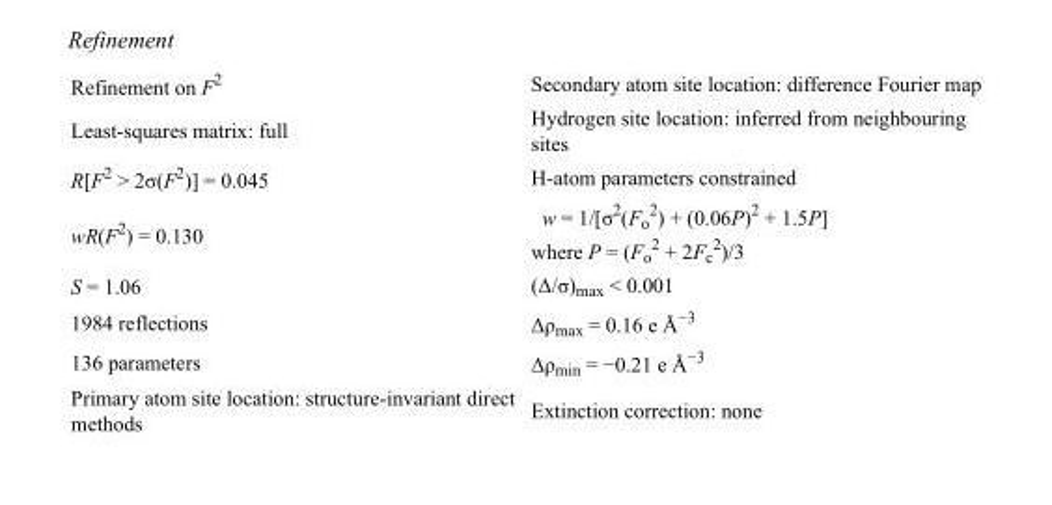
<table><tbody><tr><td>Refinement on F<sup>2</sup></td><td>Secondary atom site location: difference Fourier map</td></tr><tr><td>Least-squares matrix: full</td><td>Hydrogen site location: inferred from neighbouring sites</td></tr><tr><td>R[F<sup>2</sup> &gt; 2σ(F<sup>2</sup>)] = 0.045</td><td>H-atom parameters constrained</td></tr><tr><td>wR(F<sup>2</sup>) = 0.130</td><td>w = 1/[σ<sup>2</sup>(F<sub>o</sub> <sup>2</sup>) + (0.06P)<sup>2</sup> + 1.5P] where P = (F<sub>o</sub> <sup>2</sup> + 2F<sub>c</sub> <sup>2</sup>)/3</td></tr><tr><td>S = 1.06</td><td>(Δ/σ)<sub>max</sub> &lt; 0.001</td></tr><tr><td>1984 reflections</td><td>Δρ<sub>max</sub> = 0.16 e Å<sup>−3</sup></td></tr><tr><td>136 parameters</td><td>Δρ<sub>min</sub> = −0.21 e Å<sup>−3</sup></td></tr><tr><td>Primary atom site location: structure-invariant direct methods</td><td>Extinction correction: none</td></tr></tbody></table>